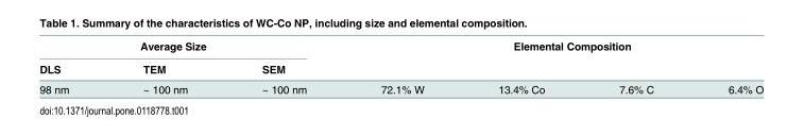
<table><thead><tr><td colspan="3">Average Size</td><td rowspan="2" colspan="4">Elemental Composition</td></tr><tr><td rowspan="2">DLS 98 nm</td><td rowspan="2">TEM ~ 100 nm</td><td rowspan="2">SEM ~ 100 nm</td></tr><tr><td>72.1% W</td><td>13.4% Co</td><td>7.6% C</td><td>6.4% O</td></tr></thead><tbody></tbody></table>